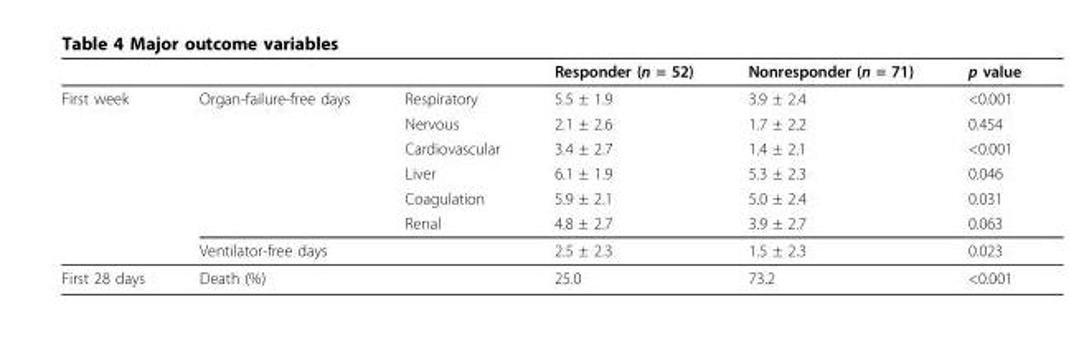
<table><thead><tr><td></td><td></td><td></td><td>Responder (n = 52)</td><td>Nonresponder (n = 71)</td><td>p value</td></tr></thead><tbody><tr><td rowspan="7">First week</td><td>Organ-failure-free days</td><td>Respiratory</td><td>5.5 ± 1.9</td><td>3.9 ± 2.4</td><td>&lt;0.001</td></tr><tr><td></td><td>Nervous</td><td>2.1 ± 2.6</td><td>1.7 ± 2.2</td><td>0.454</td></tr><tr><td></td><td>Cardiovascular</td><td>3.4 ± 2.7</td><td>1.4 ± 2.1</td><td>&lt;0.001</td></tr><tr><td></td><td>Liver</td><td>6.1 ± 1.9</td><td>5.3 ± 2.3</td><td>0.046</td></tr><tr><td></td><td>Coagulation</td><td>5.9 ± 2.1</td><td>5.0 ± 2.4</td><td>0.031</td></tr><tr><td></td><td>Renal</td><td>4.8 ± 2.7</td><td>3.9 ± 2.7</td><td>0.063</td></tr><tr><td>Ventilator-free days</td><td></td><td>2.5 ± 2.3</td><td>1.5 ± 2.3</td><td>0.023</td></tr><tr><td>First 28 days</td><td>Death (%)</td><td></td><td>25.0</td><td>73.2</td><td>&lt;0.001</td></tr></tbody></table>